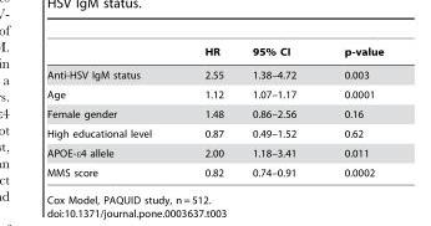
<table><thead><tr><td></td><td>HR</td><td>95% CI</td><td>p-value</td></tr></thead><tbody><tr><td>Anti-HSV IgM status</td><td>2.55</td><td>1.38–4.72</td><td>0.003</td></tr><tr><td>Age</td><td>1.12</td><td>1.07–1.17</td><td>0.0001</td></tr><tr><td>Female gender</td><td>1.48</td><td>0.86–2.56</td><td>0.16</td></tr><tr><td>High educational level</td><td>0.87</td><td>0.49–1.52</td><td>0.62</td></tr><tr><td>APOE-ε4 allele</td><td>2.00</td><td>1.18–3.41</td><td>0.011</td></tr><tr><td>MMS score</td><td>0.82</td><td>0.74–0.91</td><td>0.0002</td></tr></tbody></table>